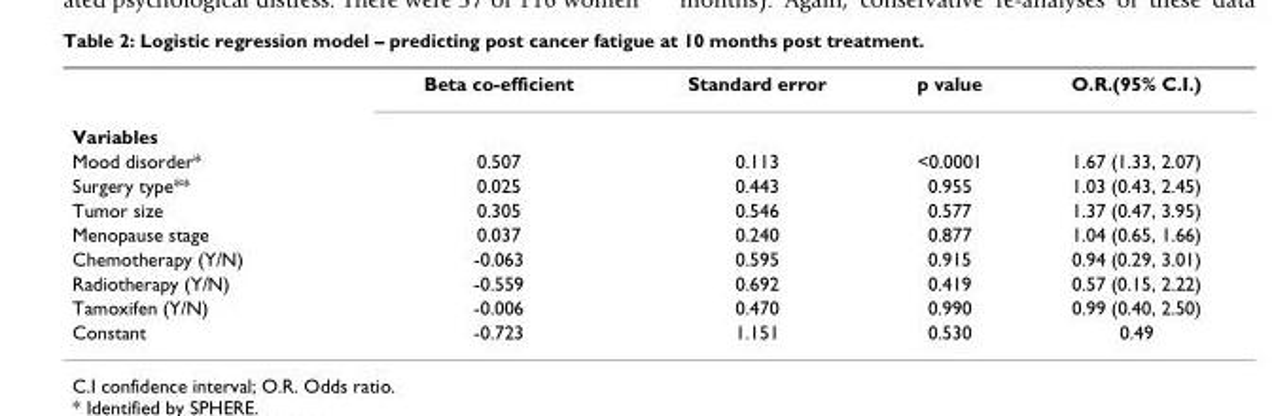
<table><thead><tr><td></td><td>Beta co-efficient</td><td>Standard error</td><td>p value</td><td>O.R.(95% C.I.)</td></tr></thead><tbody><tr><td colspan="5">Variables</td></tr><tr><td>Mood disorder*</td><td>0.507</td><td>0.113</td><td>&lt;0.0001</td><td>1.67 (1.33, 2.07)</td></tr><tr><td>Surgery type**</td><td>0.025</td><td>0.443</td><td>0.955</td><td>1.03 (0.43, 2.45)</td></tr><tr><td>Tumor size</td><td>0.305</td><td>0.546</td><td>0.577</td><td>1.37 (0.47, 3.95)</td></tr><tr><td>Menopause stage</td><td>0.037</td><td>0.240</td><td>0.877</td><td>1.04 (0.65, 1.66)</td></tr><tr><td>Chemotherapy (Y/N)</td><td>-0.063</td><td>0.595</td><td>0.915</td><td>0.94 (0.29, 3.01)</td></tr><tr><td>Radiotherapy (Y/N)</td><td>-0.559</td><td>0.692</td><td>0.419</td><td>0.57 (0.15, 2.22)</td></tr><tr><td>Tamoxifen (Y/N)</td><td>-0.006</td><td>0.470</td><td>0.990</td><td>0.99 (0.40, 2.50)</td></tr><tr><td>Constant</td><td>-0.723</td><td>1.151</td><td>0.530</td><td>0.49</td></tr></tbody></table>